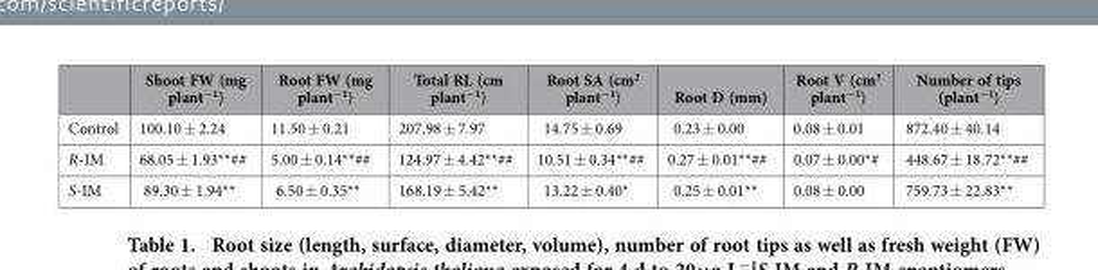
<table><thead><tr><td></td><td>Shoot FW (mg plant<sup>−1</sup>)</td><td>Root FW (mg plant<sup>−1</sup>)</td><td>Total RL (cm plant<sup>−1</sup>)</td><td>Root SA (cm<sup>2</sup> plant<sup>−1</sup>)</td><td>Root D (mm)</td><td>Root V (cm<sup>3</sup> plant<sup>−1</sup>)</td><td>Number of tips (plant<sup>−1</sup>)</td></tr></thead><tbody><tr><td>Control</td><td>100.10 ± 2.24</td><td>11.50 ± 0.21</td><td>207.98 ± 7.97</td><td>14.75 ± 0.69</td><td>0.23 ± 0.00</td><td>0.08 ± 0.01</td><td>872.40 ± 40.14</td></tr><tr><td>R-IM</td><td>68.05 ± 1.93**##</td><td>5.00 ± 0.14**##</td><td>124.97 ± 4.42**##</td><td>10.51 ± 0.34**##</td><td>0.27 ± 0.01**##</td><td>0.07 ± 0.00*#</td><td>448.67 ± 18.72**##</td></tr><tr><td>S-IM</td><td>89.30 ± 1.94**</td><td>6.50 ± 0.35**</td><td>168.19 ± 5.42**</td><td>13.22 ± 0.40*</td><td>0.25 ± 0.01**</td><td>0.08 ± 0.00</td><td>759.73 ± 22.83**</td></tr></tbody></table>